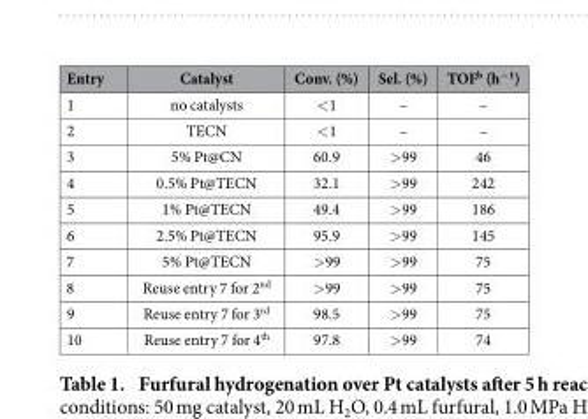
<table><thead><tr><td>Entry</td><td>Catalyst</td><td>Conv. (%)</td><td>Sel. (%)</td><td>TOF<sup>b</sup> (h<sup>−1</sup>)</td></tr></thead><tbody><tr><td>1</td><td>no catalysts</td><td>&lt;1</td><td>–</td><td>–</td></tr><tr><td>2</td><td>TECN</td><td>&lt;1</td><td>–</td><td>–</td></tr><tr><td>3</td><td>5% Pt@CN</td><td>60.9</td><td>&gt;99</td><td>46</td></tr><tr><td>4</td><td>0.5% Pt@TECN</td><td>32.1</td><td>&gt;99</td><td>242</td></tr><tr><td>5</td><td>1% Pt@TECN</td><td>49.4</td><td>&gt;99</td><td>186</td></tr><tr><td>6</td><td>2.5% Pt@TECN</td><td>95.9</td><td>&gt;99</td><td>145</td></tr><tr><td>7</td><td>5% Pt@TECN</td><td>&gt;99</td><td>&gt;99</td><td>75</td></tr><tr><td>8</td><td>Reuse entry 7 for 2<sup>nd</sup></td><td>&gt;99</td><td>&gt;99</td><td>75</td></tr><tr><td>9</td><td>Reuse entry 7 for 3<sup>rd</sup></td><td>98.5</td><td>&gt;99</td><td>75</td></tr><tr><td>10</td><td>Reuse entry 7 for 4<sup>th</sup></td><td>97.8</td><td>&gt;99</td><td>74</td></tr></tbody></table>